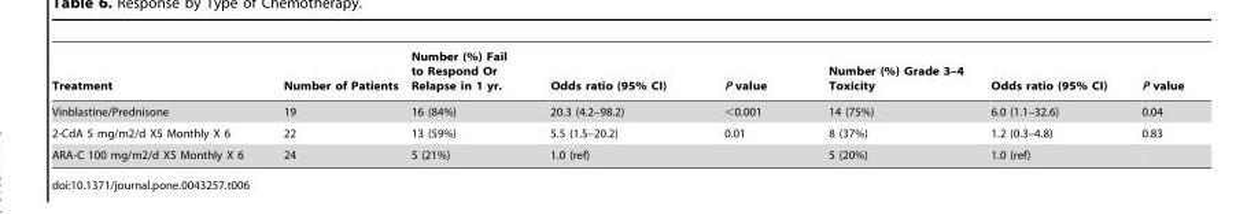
<table><thead><tr><td>Treatment</td><td>Number of Patients</td><td>Number (%) Fail to Respond Or Relapse in 1 yr.</td><td>Odds ratio (95% CI)</td><td>P value</td><td>Number (%) Grade 3–4 Toxicity</td><td>Odds ratio (95% CI)</td><td>P value</td></tr></thead><tbody><tr><td>Vinblastine/Prednisone</td><td>19</td><td>16 (84%)</td><td>20.3 (4.2–98.2)</td><td>&lt;0.001</td><td>14 (75%)</td><td>6.0 (1.1–32.6)</td><td>0.04</td></tr><tr><td>2-CdA 5 mg/m2/d X5 Monthly X 6</td><td>22</td><td>13 (59%)</td><td>5.5 (1.5–20.2)</td><td>0.01</td><td>8 (37%)</td><td>1.2 (0.3–4.8)</td><td>0.83</td></tr><tr><td>ARA-C 100 mg/m2/d X5 Monthly X 6</td><td>24</td><td>5 (21%)</td><td>1.0 (ref)</td><td></td><td>5 (20%)</td><td>1.0 (ref)</td><td></td></tr></tbody></table>